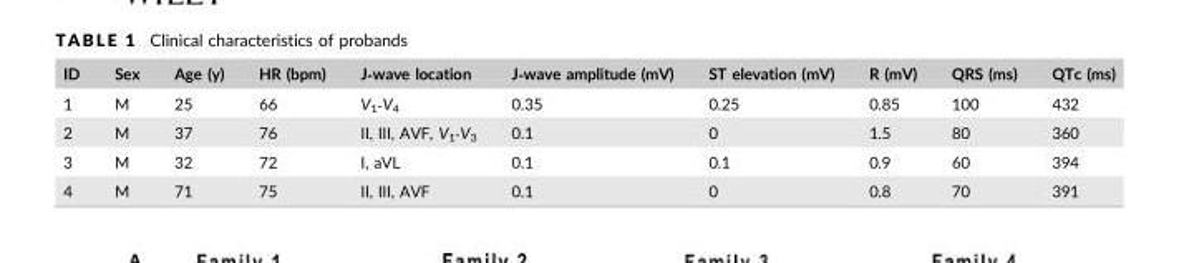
<table><thead><tr><td>ID</td><td>Sex</td><td>Age (y)</td><td>HR (bpm)</td><td>J‐wave location</td><td>J‐wave amplitude (mV)</td><td>ST elevation (mV)</td><td>R (mV)</td><td>QRS (ms)</td><td>QTc (ms)</td></tr></thead><tbody><tr><td>1</td><td>M</td><td>25</td><td>66</td><td>V<sub>1</sub>‐V<sub>4</sub></td><td>0.35</td><td>0.25</td><td>0.85</td><td>100</td><td>432</td></tr><tr><td>2</td><td>M</td><td>37</td><td>76</td><td>II, III, AVF, V<sub>1</sub>‐V<sub>3</sub></td><td>0.1</td><td>0</td><td>1.5</td><td>80</td><td>360</td></tr><tr><td>3</td><td>M</td><td>32</td><td>72</td><td>I, aVL</td><td>0.1</td><td>0.1</td><td>0.9</td><td>60</td><td>394</td></tr><tr><td>4</td><td>M</td><td>71</td><td>75</td><td>II, III, AVF</td><td>0.1</td><td>0</td><td>0.8</td><td>70</td><td>391</td></tr></tbody></table>